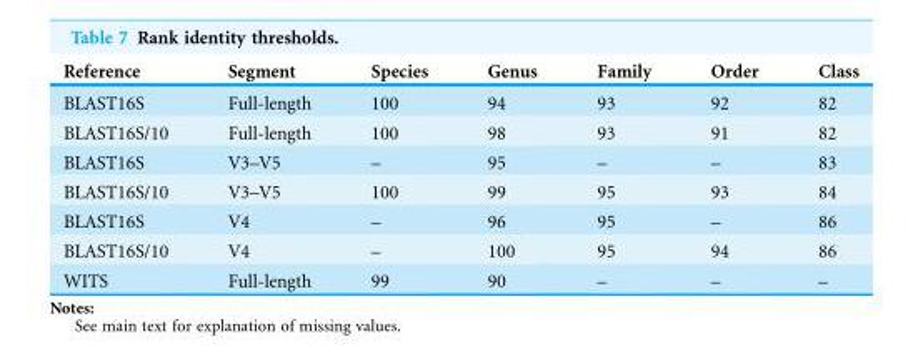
<table><thead><tr><td>Reference</td><td>Segment</td><td>Species</td><td>Genus</td><td>Family</td><td>Order</td><td>Class</td></tr></thead><tbody><tr><td>BLAST16S</td><td>Full-length</td><td>100</td><td>94</td><td>93</td><td>92</td><td>82</td></tr><tr><td>BLAST16S/10</td><td>Full-length</td><td>100</td><td>98</td><td>93</td><td>91</td><td>82</td></tr><tr><td>BLAST16S</td><td>V3–V5</td><td>–</td><td>95</td><td>–</td><td>–</td><td>83</td></tr><tr><td>BLAST16S/10</td><td>V3–V5</td><td>100</td><td>99</td><td>95</td><td>93</td><td>84</td></tr><tr><td>BLAST16S</td><td>V4</td><td>–</td><td>96</td><td>95</td><td>–</td><td>86</td></tr><tr><td>BLAST16S/10</td><td>V4</td><td>–</td><td>100</td><td>95</td><td>94</td><td>86</td></tr><tr><td>WITS</td><td>Full-length</td><td>99</td><td>90</td><td>–</td><td>–</td><td>–</td></tr></tbody></table>